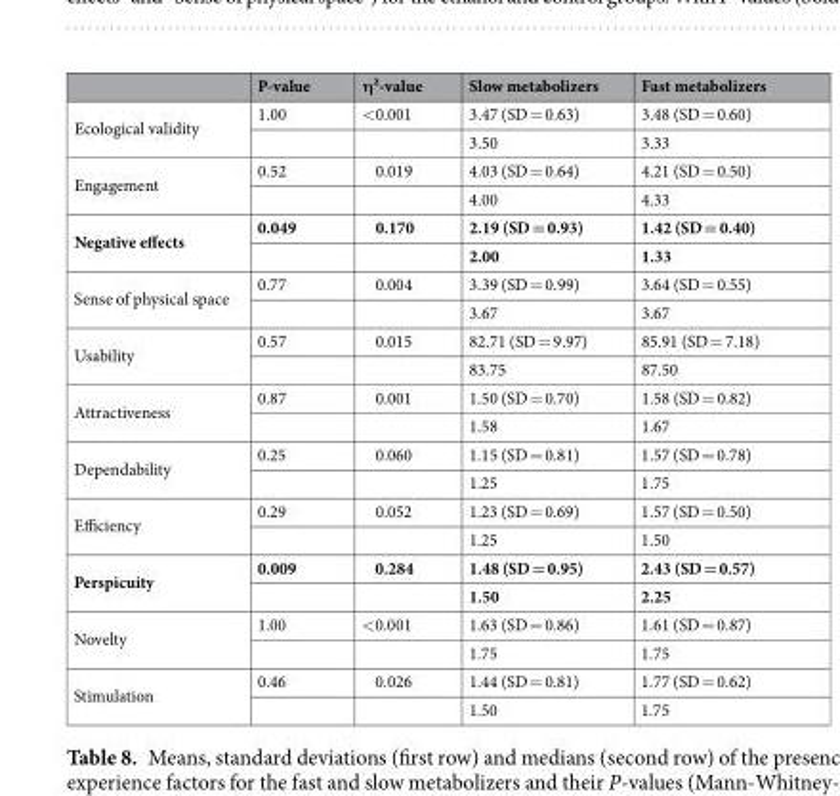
<table><thead><tr><td></td><td>P-value</td><td>η²-value</td><td>Slow metabolizers</td><td>Fast metabolizers</td></tr></thead><tbody><tr><td rowspan="2">Ecological validity</td><td>1.00</td><td>&lt;0.001</td><td>3.47 (SD = 0.63)</td><td>3.48 (SD = 0.60)</td></tr><tr><td></td><td></td><td>3.50</td><td>3.33</td></tr><tr><td rowspan="2">Engagement</td><td>0.52</td><td>0.019</td><td>4.03 (SD = 0.64)</td><td>4.21 (SD = 0.50)</td></tr><tr><td></td><td></td><td>4.00</td><td>4.33</td></tr><tr><td rowspan="2">Negative effects</td><td>0.049</td><td>0.170</td><td>2.19 (SD = 0.93)</td><td>1.42 (SD = 0.40)</td></tr><tr><td></td><td></td><td>2.00</td><td>1.33</td></tr><tr><td rowspan="2">Sense of physical space</td><td>0.77</td><td>0.004</td><td>3.39 (SD = 0.99)</td><td>3.64 (SD = 0.55)</td></tr><tr><td></td><td></td><td>3.67</td><td>3.67</td></tr><tr><td rowspan="2">Usability</td><td>0.57</td><td>0.015</td><td>82.71 (SD = 9.97)</td><td>85.91 (SD = 7.18)</td></tr><tr><td></td><td></td><td>83.75</td><td>87.50</td></tr><tr><td rowspan="2">Attractiveness</td><td>0.87</td><td>0.001</td><td>1.50 (SD = 0.70)</td><td>1.58 (SD = 0.82)</td></tr><tr><td></td><td></td><td>1.58</td><td>1.67</td></tr><tr><td rowspan="2">Dependability</td><td>0.25</td><td>0.060</td><td>1.15 (SD = 0.81)</td><td>1.57 (SD = 0.78)</td></tr><tr><td></td><td></td><td>1.25</td><td>1.75</td></tr><tr><td rowspan="2">Efficiency</td><td>0.29</td><td>0.052</td><td>1.23 (SD = 0.69)</td><td>1.57 (SD = 0.50)</td></tr><tr><td></td><td></td><td>1.25</td><td>1.50</td></tr><tr><td rowspan="2">Perspicuity</td><td>0.009</td><td>0.284</td><td>1.48 (SD = 0.95)</td><td>2.43 (SD = 0.57)</td></tr><tr><td></td><td></td><td>1.50</td><td>2.25</td></tr><tr><td rowspan="2">Novelty</td><td>1.00</td><td>&lt;0.001</td><td>1.63 (SD = 0.86)</td><td>1.61 (SD = 0.87)</td></tr><tr><td></td><td></td><td>1.75</td><td>1.75</td></tr><tr><td rowspan="2">Stimulation</td><td>0.46</td><td>0.026</td><td>1.44 (SD = 0.81)</td><td>1.77 (SD = 0.62)</td></tr><tr><td></td><td></td><td>1.50</td><td>1.75</td></tr></tbody></table>